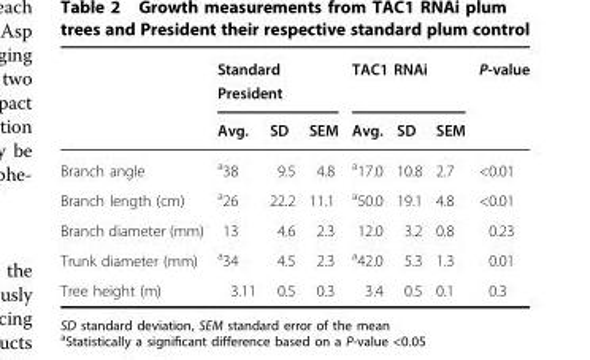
<table><thead><tr><td rowspan="2"></td><td colspan="3">Standard President</td><td colspan="3">TAC1 RNAi</td><td rowspan="2">P-value</td></tr><tr><td>Avg.</td><td>SD</td><td>SEM</td><td>Avg.</td><td>SD</td><td>SEM</td></tr></thead><tbody><tr><td>Branch angle</td><td><sup>a</sup>38</td><td>9.5</td><td>4.8</td><td><sup>a</sup>17.0</td><td>10.8</td><td>2.7</td><td>&lt;0.01</td></tr><tr><td>Branch length (cm)</td><td><sup>a</sup>26</td><td>22.2</td><td>11.1</td><td><sup>a</sup>50.0</td><td>19.1</td><td>4.8</td><td>&lt;0.01</td></tr><tr><td>Branch diameter (mm)</td><td>13</td><td>4.6</td><td>2.3</td><td>12.0</td><td>3.2</td><td>0.8</td><td>0.23</td></tr><tr><td>Trunk diameter (mm)</td><td><sup>a</sup>34</td><td>4.5</td><td>2.3</td><td><sup>a</sup>42.0</td><td>5.3</td><td>1.3</td><td>0.01</td></tr><tr><td>Tree height (m)</td><td>3.11</td><td>0.5</td><td>0.3</td><td>3.4</td><td>0.5</td><td>0.1</td><td>0.3</td></tr></tbody></table>